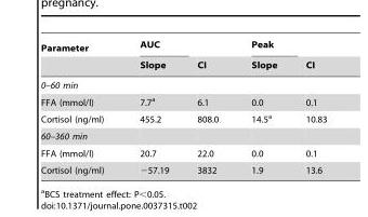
<table><thead><tr><td rowspan="2">Parameter</td><td rowspan="2">AUC Slope</td><td rowspan="2">CI</td><td rowspan="2">Peak Slope</td><td rowspan="2">CI</td></tr><tr></tr></thead><tbody><tr><td colspan="5">0–60 min</td></tr><tr><td>FFA (mmol/l)</td><td>7.7<sup>a</sup></td><td>6.1</td><td>0.0</td><td>0.1</td></tr><tr><td>Cortisol (ng/ml)</td><td>455.2</td><td>808.0</td><td>14.5<sup>a</sup></td><td>10.83</td></tr><tr><td colspan="5">60–360 min</td></tr><tr><td>FFA (mmol/l)</td><td>20.7</td><td>22.0</td><td>0.0</td><td>0.1</td></tr><tr><td>Cortisol (ng/ml)</td><td>−57.19</td><td>3832</td><td>1.9</td><td>13.6</td></tr></tbody></table>